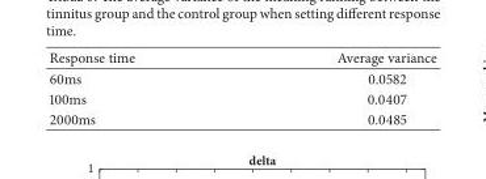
<table><thead><tr><td>Response time</td><td>Average variance</td></tr></thead><tbody><tr><td>60ms</td><td>0.0582</td></tr><tr><td>100ms</td><td>0.0407</td></tr><tr><td>2000ms</td><td>0.0485</td></tr></tbody></table>